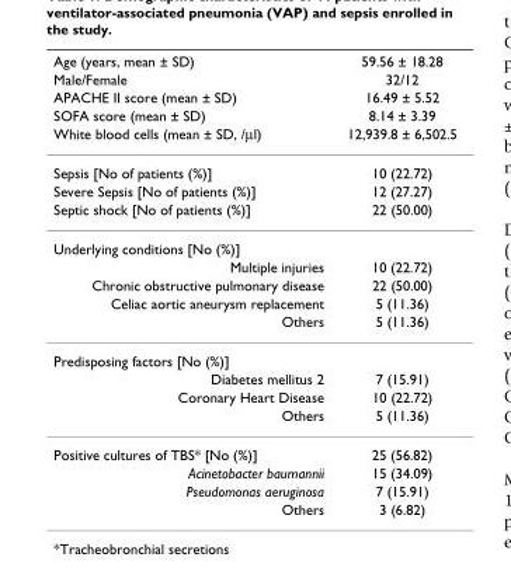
<table><thead><tr><td rowspan="5">Age (years, mean ± SD) Male/Female APACHE II score (mean ± SD) SOFA score (mean ± SD) White blood cells (mean ± SD, /μl)</td><td rowspan="5">59.56 ± 18.28 32/12 16.49 ± 5.52 8.14 ± 3.39 12,939.8 ± 6,502.5</td></tr><tr></tr><tr></tr><tr></tr><tr></tr></thead><tbody><tr><td>Sepsis [No of patients (%)]</td><td>10 (22.72)</td></tr><tr><td>Severe Sepsis [No of patients (%)]</td><td>12 (27.27)</td></tr><tr><td>Septic shock [No of patients (%)]</td><td>22 (50.00)</td></tr><tr><td colspan="2">Underlying conditions [No (%)]</td></tr><tr><td>Multiple injuries</td><td>10 (22.72)</td></tr><tr><td>Chronic obstructive pulmonary disease</td><td>22 (50.00)</td></tr><tr><td>Celiac aortic aneurysm replacement</td><td>5 (11.36)</td></tr><tr><td>Others</td><td>5 (11.36)</td></tr><tr><td colspan="2">Predisposing factors [No (%)]</td></tr><tr><td>Diabetes mellitus 2</td><td>7 (15.91)</td></tr><tr><td>Coronary Heart Disease</td><td>10 (22.72)</td></tr><tr><td>Others</td><td>5 (11.36)</td></tr><tr><td>Positive cultures of TBS* [No (%)]</td><td>25 (56.82)</td></tr><tr><td>Acinetobacter baumannii</td><td>15 (34.09)</td></tr><tr><td>Pseudomonas aeruginosa</td><td>7 (15.91)</td></tr><tr><td>Others</td><td>3 (6.82)</td></tr></tbody></table>